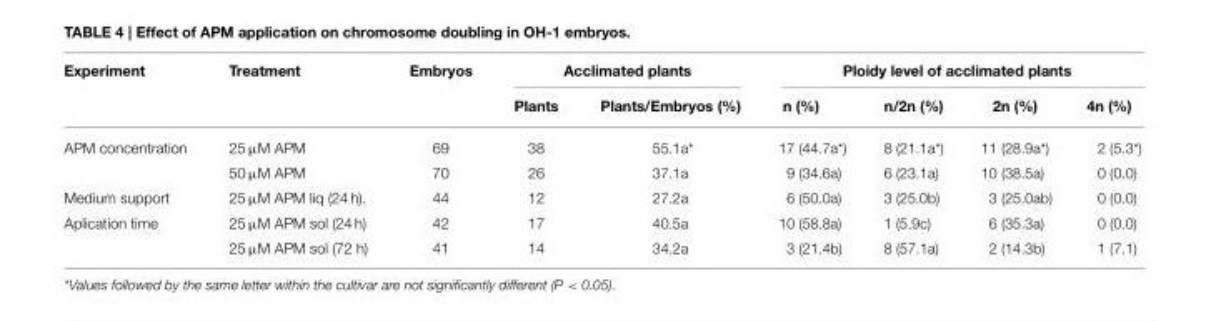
<table><thead><tr><td rowspan="2">Experiment</td><td rowspan="2">Treatment</td><td rowspan="2">Embryos</td><td colspan="2">Acclimated plants</td><td colspan="4">Ploidy level of acclimated plants</td></tr><tr><td>Plants</td><td>Plants/Embryos (%)</td><td>n (%)</td><td>n/2n (%)</td><td>2n (%)</td><td>4n (%)</td></tr></thead><tbody><tr><td rowspan="2">APM concentration</td><td>25 µM APM</td><td>69</td><td>38</td><td>55.1a*</td><td>17 (44.7a*)</td><td>8 (21.1a*)</td><td>11 (28.9a*)</td><td>2 (5.3*)</td></tr><tr><td>50 µM APM</td><td>70</td><td>26</td><td>37.1a</td><td>9 (34.6a)</td><td>6 (23.1a)</td><td>10 (38.5a)</td><td>0 (0.0)</td></tr><tr><td>Medium support</td><td>25 µM APM liq (24 h).</td><td>44</td><td>12</td><td>27.2a</td><td>6 (50.0a)</td><td>3 (25.0b)</td><td>3 (25.0ab)</td><td>0 (0.0)</td></tr><tr><td rowspan="2">Aplication time</td><td>25 µM APM sol (24 h)</td><td>42</td><td>17</td><td>40.5a</td><td>10 (58.8a)</td><td>1 (5.9c)</td><td>6 (35.3a)</td><td>0 (0.0)</td></tr><tr><td>25 µM APM sol (72 h)</td><td>41</td><td>14</td><td>34.2a</td><td>3 (21.4b)</td><td>8 (57.1a)</td><td>2 (14.3b)</td><td>1 (7.1)</td></tr></tbody></table>